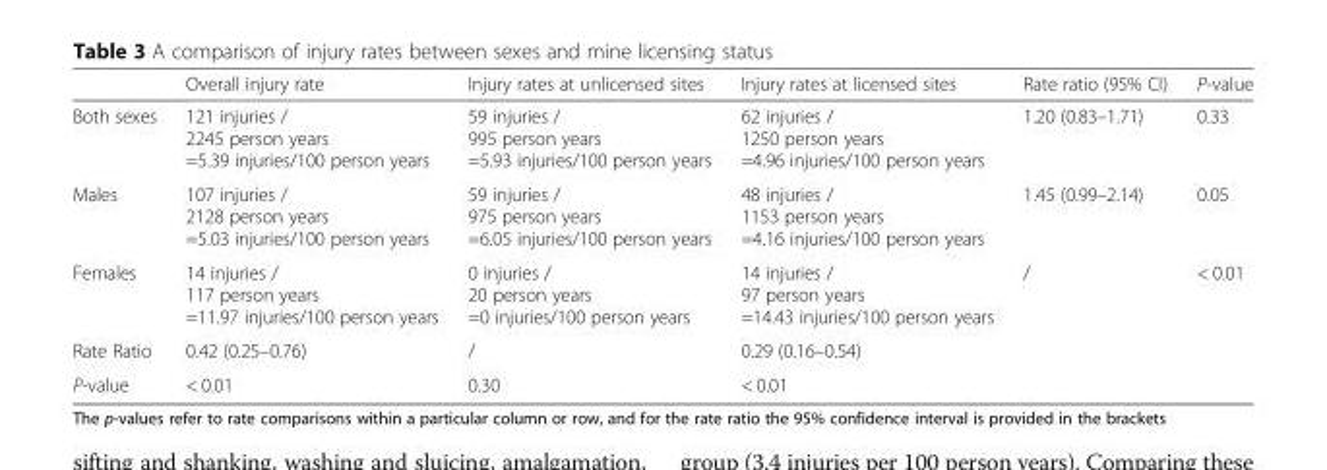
<table><thead><tr><td></td><td>Overall injury rate</td><td>Injury rates at unlicensed sites</td><td>Injury rates at licensed sites</td><td>Rate ratio (95% CI)</td><td>P-value</td></tr></thead><tbody><tr><td>Both sexes</td><td>121 injuries / 2245 person years =5.39 injuries/100 person years</td><td>59 injuries / 995 person years =5.93 injuries/100 person years</td><td>62 injuries / 1250 person years =4.96 injuries/100 person years</td><td>1.20 (0.83–1.71)</td><td>0.33</td></tr><tr><td>Males</td><td>107 injuries / 2128 person years =5.03 injuries/100 person years</td><td>59 injuries / 975 person years =6.05 injuries/100 person years</td><td>48 injuries / 1153 person years =4.16 injuries/100 person years</td><td>1.45 (0.99–2.14)</td><td>0.05</td></tr><tr><td>Females</td><td>14 injuries / 117 person years =11.97 injuries/100 person years</td><td>0 injuries / 20 person years =0 injuries/100 person years</td><td>14 injuries / 97 person years =14.43 injuries/100 person years</td><td>/</td><td>&lt; 0.01</td></tr><tr><td>Rate Ratio</td><td>0.42 (0.25–0.76)</td><td>/</td><td>0.29 (0.16–0.54)</td><td></td><td></td></tr><tr><td>P-value</td><td>&lt; 0.01</td><td>0.30</td><td>&lt; 0.01</td><td></td><td></td></tr></tbody></table>